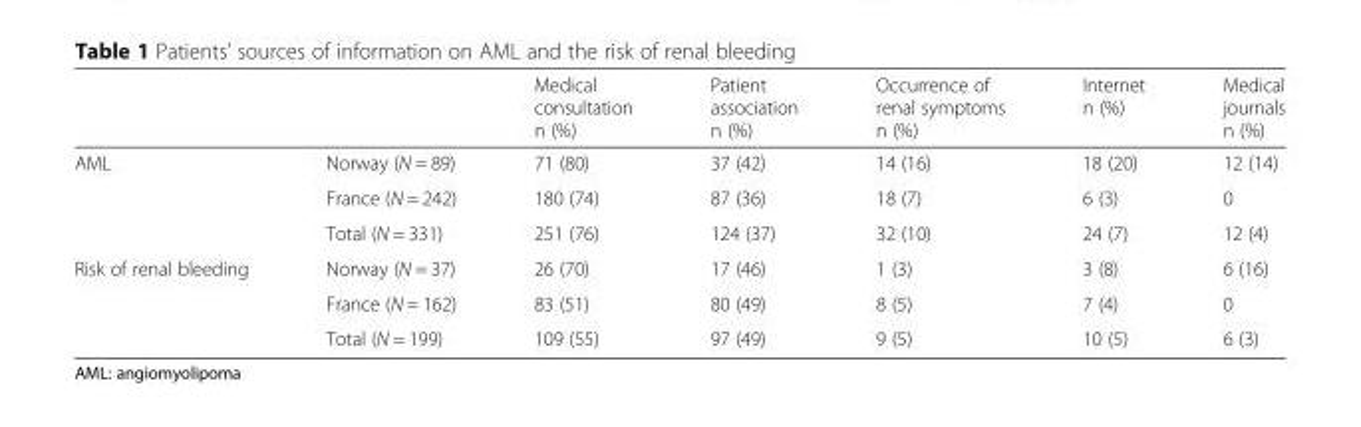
<table><thead><tr><td></td><td></td><td>Medical consultation n (%)</td><td>Patient association n (%)</td><td>Occurrence of renal symptoms n (%)</td><td>Internet n (%)</td><td>Medical journals n (%)</td></tr></thead><tbody><tr><td rowspan="3">AML</td><td>Norway (N = 89)</td><td>71 (80)</td><td>37 (42)</td><td>14 (16)</td><td>18 (20)</td><td>12 (14)</td></tr><tr><td>France (N = 242)</td><td>180 (74)</td><td>87 (36)</td><td>18 (7)</td><td>6 (3)</td><td>0</td></tr><tr><td>Total (N = 331)</td><td>251 (76)</td><td>124 (37)</td><td>32 (10)</td><td>24 (7)</td><td>12 (4)</td></tr><tr><td rowspan="3">Risk of renal bleeding</td><td>Norway (N = 37)</td><td>26 (70)</td><td>17 (46)</td><td>1 (3)</td><td>3 (8)</td><td>6 (16)</td></tr><tr><td>France (N = 162)</td><td>83 (51)</td><td>80 (49)</td><td>8 (5)</td><td>7 (4)</td><td>0</td></tr><tr><td>Total (N = 199)</td><td>109 (55)</td><td>97 (49)</td><td>9 (5)</td><td>10 (5)</td><td>6 (3)</td></tr></tbody></table>